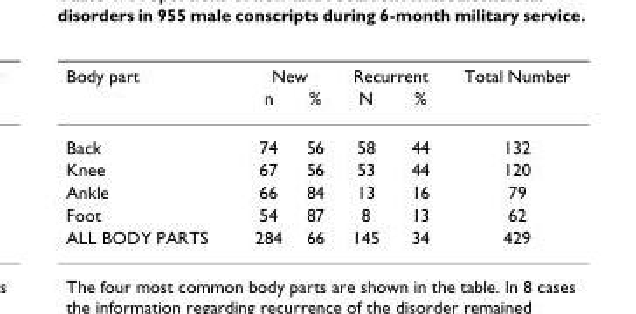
<table><thead><tr><td rowspan="2">Body part</td><td colspan="2">New</td><td colspan="2">Recurrent</td><td rowspan="2">Total Number</td></tr><tr><td>n</td><td>%</td><td>N</td><td>%</td></tr></thead><tbody><tr><td>Back</td><td>74</td><td>56</td><td>58</td><td>44</td><td>132</td></tr><tr><td>Knee</td><td>67</td><td>56</td><td>53</td><td>44</td><td>120</td></tr><tr><td>Ankle</td><td>66</td><td>84</td><td>13</td><td>16</td><td>79</td></tr><tr><td>Foot</td><td>54</td><td>87</td><td>8</td><td>13</td><td>62</td></tr><tr><td>ALL BODY PARTS</td><td>284</td><td>66</td><td>145</td><td>34</td><td>429</td></tr></tbody></table>